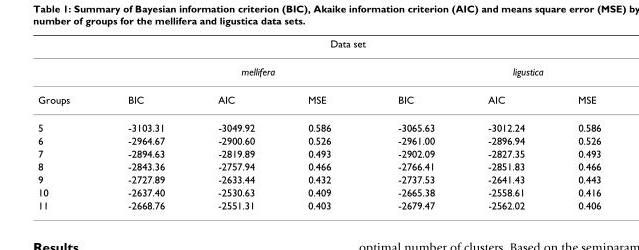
<table><thead><tr><td colspan="7">Data set</td></tr><tr><td rowspan="2">Groups</td><td colspan="3">mellifera</td><td colspan="3">ligustica</td></tr><tr><td>BIC</td><td>AIC</td><td>MSE</td><td>BIC</td><td>AIC</td><td>MSE</td></tr></thead><tbody><tr><td>5</td><td>-3103.31</td><td>-3049.92</td><td>0.586</td><td>-3065.63</td><td>-3012.24</td><td>0.586</td></tr><tr><td>6</td><td>-2964.67</td><td>-2900.60</td><td>0.526</td><td>-2961.00</td><td>-2896.94</td><td>0.526</td></tr><tr><td>7</td><td>-2894.63</td><td>-2819.89</td><td>0.493</td><td>-2902.09</td><td>-2827.35</td><td>0.493</td></tr><tr><td>8</td><td>-2843.36</td><td>-2757.94</td><td>0.466</td><td>-2766.41</td><td>-2851.83</td><td>0.466</td></tr><tr><td>9</td><td>-2727.89</td><td>-2633.44</td><td>0.432</td><td>-2737.53</td><td>-2641.43</td><td>0.443</td></tr><tr><td>10</td><td>-2637.40</td><td>-2530.63</td><td>0.409</td><td>-2665.38</td><td>-2558.61</td><td>0.416</td></tr><tr><td>11</td><td>-2668.76</td><td>-2551.31</td><td>0.403</td><td>-2679.47</td><td>-2562.02</td><td>0.406</td></tr></tbody></table>